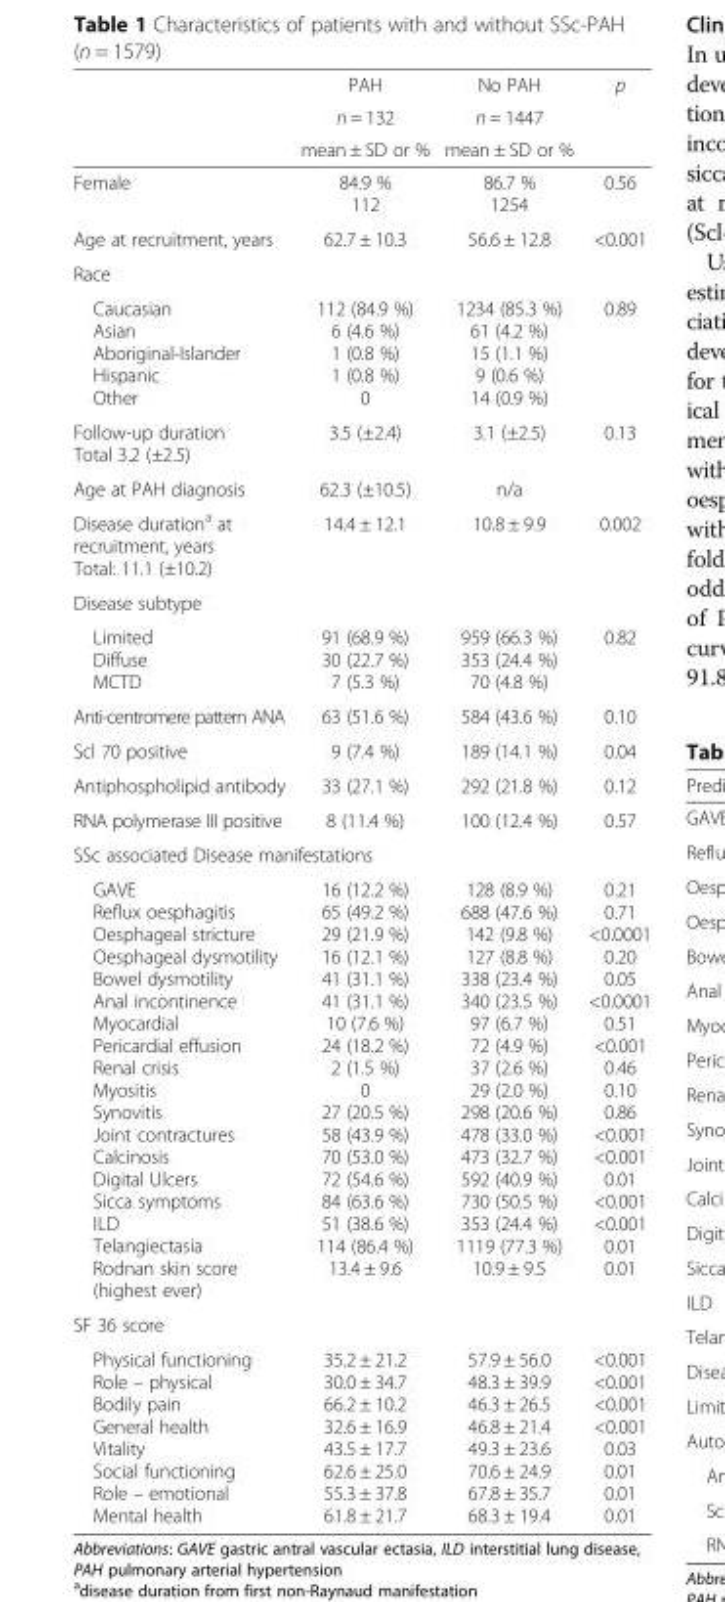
<table><thead><tr><td rowspan="3"></td><td rowspan="3">PAH n = 132 mean ± SD or %</td><td rowspan="3">No PAH n = 1447 mean ± SD or %</td><td rowspan="3">p</td></tr><tr></tr><tr></tr></thead><tbody><tr><td>Female</td><td>84.9 % 112</td><td>86.7 % 1254</td><td>0.56</td></tr><tr><td>Age at recruitment, years</td><td>62.7 ± 10.3</td><td>56.6 ± 12.8</td><td>&lt;0.001</td></tr><tr><td colspan="4">Race</td></tr><tr><td>Caucasian Asian Aboriginal-Islander Hispanic Other</td><td>112 (84.9 %) 6 (4.6 %) 1 (0.8 %) 1 (0.8 %) 0</td><td>1234 (85.3 %) 61 (4.2 %) 15 (1.1 %) 9 (0.6 %) 14 (0.9 %)</td><td>0.89</td></tr><tr><td>Follow-up duration Total 3.2 (±2.5)</td><td>3.5 (±2.4)</td><td>3.1 (±2.5)</td><td>0.13</td></tr><tr><td>Age at PAH diagnosis</td><td>62.3 (±10.5)</td><td>n/a</td><td></td></tr><tr><td>Disease duration<sup>a</sup> at recruitment, years Total: 11.1 (±10.2)</td><td>14.4 ± 12.1</td><td>10.8 ± 9.9</td><td>0.002</td></tr><tr><td colspan="4">Disease subtype</td></tr><tr><td>Limited Diffuse MCTD</td><td>91 (68.9 %) 30 (22.7 %) 7 (5.3 %)</td><td>959 (66.3 %) 353 (24.4 %) 70 (4.8 %)</td><td>0.82</td></tr><tr><td>Anti-centromere pattern ANA</td><td>63 (51.6 %)</td><td>584 (43.6 %)</td><td>0.10</td></tr><tr><td>Scl 70 positive</td><td>9 (7.4 %)</td><td>189 (14.1 %)</td><td>0.04</td></tr><tr><td>Antiphospholipid antibody</td><td>33 (27.1 %)</td><td>292 (21.8 %)</td><td>0.12</td></tr><tr><td>RNA polymerase III positive</td><td>8 (11.4 %)</td><td>100 (12.4 %)</td><td>0.57</td></tr><tr><td colspan="4">SSc associated Disease manifestations</td></tr><tr><td>GAVE Reflux oesphagitis Oesphageal stricture Oesphageal dysmotility Bowel dysmotility Anal incontinence Myocardial Pericardial effusion Renal crisis Myositis Synovitis Joint contractures Calcinosis Digital Ulcers Sicca symptoms ILD Telangiectasia Rodnan skin score (highest ever)</td><td>16 (12.2 %) 65 (49.2 %) 29 (21.9 %) 16 (12.1 %) 41 (31.1 %) 41 (31.1 %) 10 (7.6 %) 24 (18.2 %) 2 (1.5 %) 0 27 (20.5 %) 58 (43.9 %) 70 (53.0 %) 72 (54.6 %) 84 (63.6 %) 51 (38.6 %) 114 (86.4 %) 13.4 ± 9.6</td><td>128 (8.9 %) 688 (47.6 %) 142 (9.8 %) 127 (8.8 %) 338 (23.4 %) 340 (23.5 %) 97 (6.7 %) 72 (4.9 %) 37 (2.6 %) 29 (2.0 %) 298 (20.6 %) 478 (33.0 %) 473 (32.7 %) 592 (40.9 %) 730 (50.5 %) 353 (24.4 %) 1119 (77.3 %) 10.9 ± 9.5</td><td>0.21 0.71 &lt;0.0001 0.20 0.05 &lt;0.0001 0.51 &lt;0.001 0.46 0.10 0.86 &lt;0.001 &lt;0.001 0.01 &lt;0.001 &lt;0.001 0.01 0.01</td></tr><tr><td colspan="4">SF 36 score</td></tr><tr><td>Physical functioning Role – physical Bodily pain General health Vitality Social functioning Role – emotional Mental health</td><td>35.2 ± 21.2 30.0 ± 34.7 66.2 ± 10.2 32.6 ± 16.9 43.5 ± 17.7 62.6 ± 25.0 55.3 ± 37.8 61.8 ± 21.7</td><td>57.9 ± 56.0 48.3 ± 39.9 46.3 ± 26.5 46.8 ± 21.4 49.3 ± 23.6 70.6 ± 24.9 67.8 ± 35.7 68.3 ± 19.4</td><td>&lt;0.001 &lt;0.001 &lt;0.001 &lt;0.001 0.03 0.01 0.01 0.01</td></tr></tbody></table>